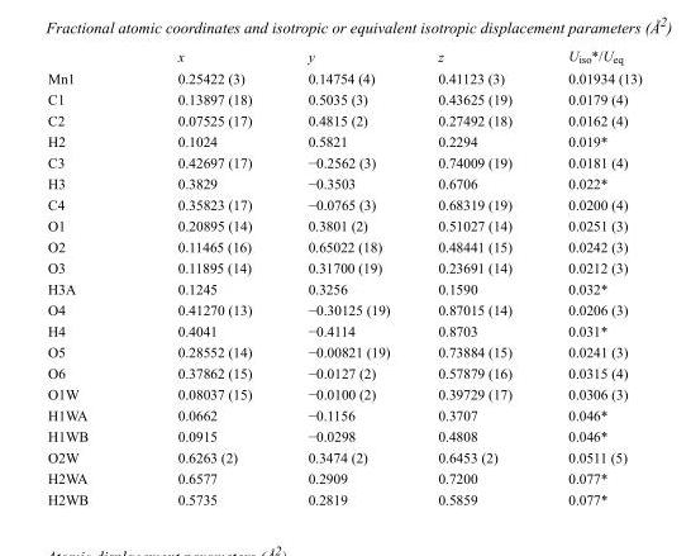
<table><thead><tr><td></td><td>x</td><td>y</td><td>z</td><td>U<sub>iso</sub>*/U<sub>eq</sub></td></tr></thead><tbody><tr><td>Mn1</td><td>0.25422 (3)</td><td>0.14754 (4)</td><td>0.41123 (3)</td><td>0.01934 (13)</td></tr><tr><td>C1</td><td>0.13897 (18)</td><td>0.5035 (3)</td><td>0.43625 (19)</td><td>0.0179 (4)</td></tr><tr><td>C2</td><td>0.07525 (17)</td><td>0.4815 (2)</td><td>0.27492 (18)</td><td>0.0162 (4)</td></tr><tr><td>H2</td><td>0.1024</td><td>0.5821</td><td>0.2294</td><td>0.019*</td></tr><tr><td>C3</td><td>0.42697 (17)</td><td>−0.2562 (3)</td><td>0.74009 (19)</td><td>0.0181 (4)</td></tr><tr><td>H3</td><td>0.3829</td><td>−0.3503</td><td>0.6706</td><td>0.022*</td></tr><tr><td>C4</td><td>0.35823 (17)</td><td>−0.0765 (3)</td><td>0.68319 (19)</td><td>0.0200 (4)</td></tr><tr><td>O1</td><td>0.20895 (14)</td><td>0.3801 (2)</td><td>0.51027 (14)</td><td>0.0251 (3)</td></tr><tr><td>O2</td><td>0.11465 (16)</td><td>0.65022 (18)</td><td>0.48441 (15)</td><td>0.0242 (3)</td></tr><tr><td>O3</td><td>0.11895 (14)</td><td>0.31700 (19)</td><td>0.23691 (14)</td><td>0.0212 (3)</td></tr><tr><td>H3A</td><td>0.1245</td><td>0.3256</td><td>0.1590</td><td>0.032*</td></tr><tr><td>O4</td><td>0.41270 (13)</td><td>−0.30125 (19)</td><td>0.87015 (14)</td><td>0.0206 (3)</td></tr><tr><td>H4</td><td>0.4041</td><td>−0.4114</td><td>0.8703</td><td>0.031*</td></tr><tr><td>O5</td><td>0.28552 (14)</td><td>−0.00821 (19)</td><td>0.73884 (15)</td><td>0.0241 (3)</td></tr><tr><td>O6</td><td>0.37862 (15)</td><td>−0.0127 (2)</td><td>0.57879 (16)</td><td>0.0315 (4)</td></tr><tr><td>O1W</td><td>0.08037 (15)</td><td>−0.0100 (2)</td><td>0.39729 (17)</td><td>0.0306 (3)</td></tr><tr><td>H1WA</td><td>0.0662</td><td>−0.1156</td><td>0.3707</td><td>0.046*</td></tr><tr><td>H1WB</td><td>0.0915</td><td>−0.0298</td><td>0.4808</td><td>0.046*</td></tr><tr><td>O2W</td><td>0.6263 (2)</td><td>0.3474 (2)</td><td>0.6453 (2)</td><td>0.0511 (5)</td></tr><tr><td>H2WA</td><td>0.6577</td><td>0.2909</td><td>0.7200</td><td>0.077*</td></tr><tr><td>H2WB</td><td>0.5735</td><td>0.2819</td><td>0.5859</td><td>0.077*</td></tr></tbody></table>